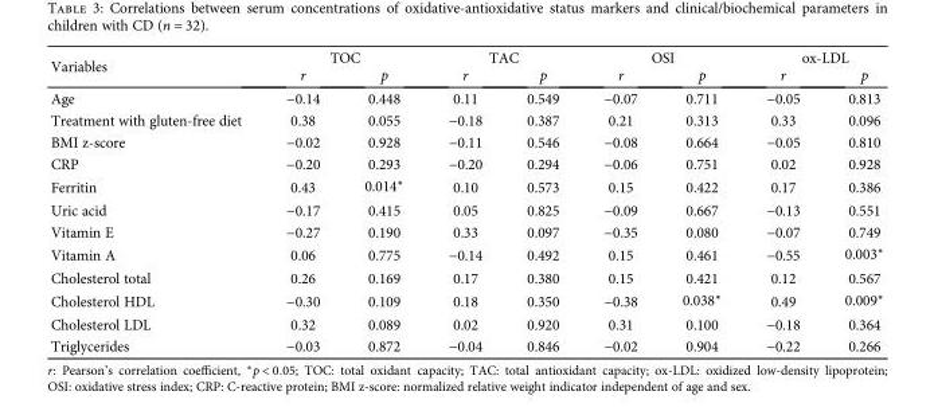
<table><thead><tr><td rowspan="2">Variables</td><td colspan="2">TOC</td><td colspan="2">TAC</td><td colspan="2">OSI</td><td colspan="2">ox-LDL</td></tr><tr><td>r</td><td>p</td><td>r</td><td>p</td><td>r</td><td>p</td><td>r</td><td>p</td></tr></thead><tbody><tr><td>Age</td><td>−0.14</td><td>0.448</td><td>0.11</td><td>0.549</td><td>−0.07</td><td>0.711</td><td>−0.05</td><td>0.813</td></tr><tr><td>Treatment with gluten-free diet</td><td>0.38</td><td>0.055</td><td>−0.18</td><td>0.387</td><td>0.21</td><td>0.313</td><td>0.33</td><td>0.096</td></tr><tr><td>BMI z-score</td><td>−0.02</td><td>0.928</td><td>−0.11</td><td>0.546</td><td>−0.08</td><td>0.664</td><td>−0.05</td><td>0.810</td></tr><tr><td>CRP</td><td>−0.20</td><td>0.293</td><td>−0.20</td><td>0.294</td><td>−0.06</td><td>0.751</td><td>0.02</td><td>0.928</td></tr><tr><td>Ferritin</td><td>0.43</td><td>0.014∗</td><td>0.10</td><td>0.573</td><td>0.15</td><td>0.422</td><td>0.17</td><td>0.386</td></tr><tr><td>Uric acid</td><td>−0.17</td><td>0.415</td><td>0.05</td><td>0.825</td><td>−0.09</td><td>0.667</td><td>−0.13</td><td>0.551</td></tr><tr><td>Vitamin E</td><td>−0.27</td><td>0.190</td><td>0.33</td><td>0.097</td><td>−0.35</td><td>0.080</td><td>−0.07</td><td>0.749</td></tr><tr><td>Vitamin A</td><td>0.06</td><td>0.775</td><td>−0.14</td><td>0.492</td><td>0.15</td><td>0.461</td><td>−0.55</td><td>0.003∗</td></tr><tr><td>Cholesterol total</td><td>0.26</td><td>0.169</td><td>0.17</td><td>0.380</td><td>0.15</td><td>0.421</td><td>0.12</td><td>0.567</td></tr><tr><td>Cholesterol HDL</td><td>−0.30</td><td>0.109</td><td>0.18</td><td>0.350</td><td>−0.38</td><td>0.038∗</td><td>0.49</td><td>0.009∗</td></tr><tr><td>Cholesterol LDL</td><td>0.32</td><td>0.089</td><td>0.02</td><td>0.920</td><td>0.31</td><td>0.100</td><td>−0.18</td><td>0.364</td></tr><tr><td>Triglycerides</td><td>−0.03</td><td>0.872</td><td>−0.04</td><td>0.846</td><td>−0.02</td><td>0.904</td><td>−0.22</td><td>0.266</td></tr></tbody></table>